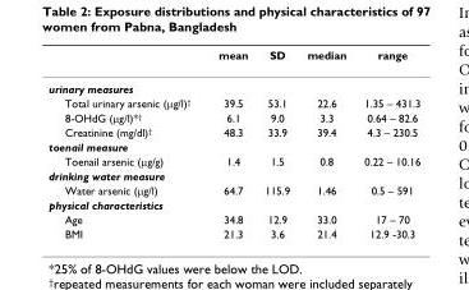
<table><thead><tr><td></td><td>mean</td><td>SD</td><td>median</td><td>range</td></tr></thead><tbody><tr><td colspan="5">urinary measures</td></tr><tr><td>Total urinary arsenic (µg/l)<sup>†</sup></td><td>39.5</td><td>53.1</td><td>22.6</td><td>1.35 – 431.3</td></tr><tr><td>8-OHdG (µg/l)*<sup>†</sup></td><td>6.1</td><td>9.0</td><td>3.3</td><td>0.64 – 82.6</td></tr><tr><td>Creatinine (mg/dl)<sup>†</sup></td><td>48.3</td><td>33.9</td><td>39.4</td><td>4.3 – 230.5</td></tr><tr><td colspan="5">toenail measure</td></tr><tr><td>Toenail arsenic (µg/g)</td><td>1.4</td><td>1.5</td><td>0.8</td><td>0.22 – 10.16</td></tr><tr><td colspan="5">drinking water measure</td></tr><tr><td>Water arsenic (µg/l)</td><td>64.7</td><td>115.9</td><td>1.46</td><td>0.5 – 591</td></tr><tr><td colspan="5">physical characteristics</td></tr><tr><td>Age</td><td>34.8</td><td>12.9</td><td>33.0</td><td>17 – 70</td></tr><tr><td>BMI</td><td>21.3</td><td>3.6</td><td>21.4</td><td>12.9 -30.3</td></tr></tbody></table>